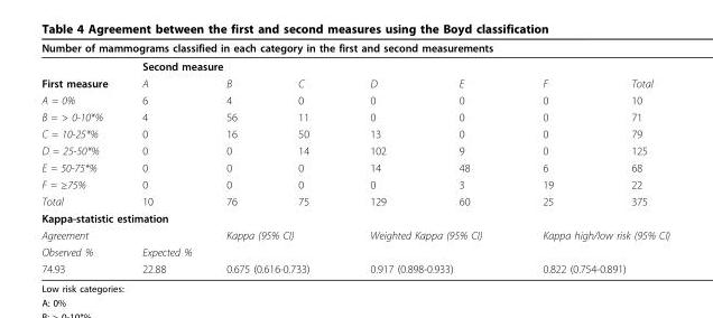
<table><thead><tr><td colspan="8">Number of mammograms classified in each category in the first and second measurements</td></tr><tr><td rowspan="2">First measure</td><td colspan="7">Second measure</td></tr><tr><td>A</td><td>B</td><td>C</td><td>D</td><td>E</td><td>F</td><td>Total</td></tr></thead><tbody><tr><td>A = 0%</td><td>6</td><td>4</td><td>0</td><td>0</td><td>0</td><td>0</td><td>10</td></tr><tr><td>B = &gt; 0-10*%</td><td>4</td><td>56</td><td>11</td><td>0</td><td>0</td><td>0</td><td>71</td></tr><tr><td>C = 10-25*%</td><td>0</td><td>16</td><td>50</td><td>13</td><td>0</td><td>0</td><td>79</td></tr><tr><td>D = 25-50*%</td><td>0</td><td>0</td><td>14</td><td>102</td><td>9</td><td>0</td><td>125</td></tr><tr><td>E = 50-75*%</td><td>0</td><td>0</td><td>0</td><td>14</td><td>48</td><td>6</td><td>68</td></tr><tr><td>F = ≥75%</td><td>0</td><td>0</td><td>0</td><td>0</td><td>3</td><td>19</td><td>22</td></tr><tr><td>Total</td><td>10</td><td>76</td><td>75</td><td>129</td><td>60</td><td>25</td><td>375</td></tr><tr><td colspan="8">Kappa-statistic estimation</td></tr><tr><td colspan="2">Agreement</td><td colspan="2">Kappa (95% CI)</td><td colspan="2">Weighted Kappa (95% CI)</td><td colspan="2">Kappa high/low risk (95% CI)</td></tr><tr><td>Observed %</td><td>Expected %</td><td></td><td></td><td></td><td></td><td></td><td></td></tr><tr><td>74.93</td><td>22.88</td><td colspan="2">0.675 (0.616-0.733)</td><td colspan="2">0.917 (0.898-0.933)</td><td colspan="2">0.822 (0.754-0.891)</td></tr></tbody></table>